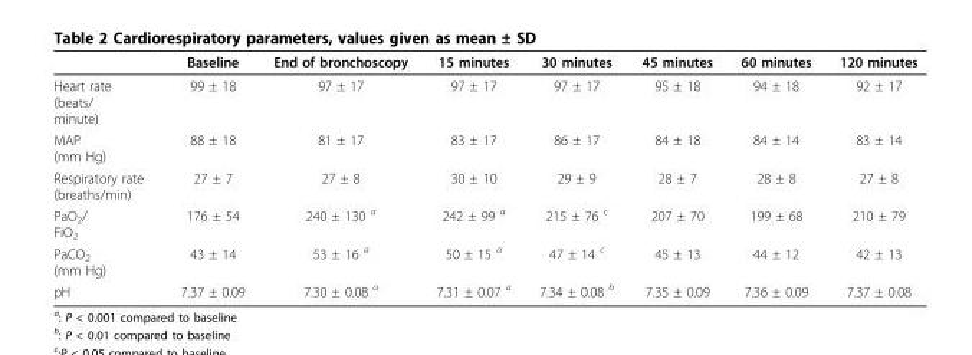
<table><thead><tr><td></td><td>Baseline</td><td>End of bronchoscopy</td><td>15 minutes</td><td>30 minutes</td><td>45 minutes</td><td>60 minutes</td><td>120 minutes</td></tr></thead><tbody><tr><td>Heart rate (beats/ minute)</td><td>99 ± 18</td><td>97 ± 17</td><td>97 ± 17</td><td>97 ± 17</td><td>95 ± 18</td><td>94 ± 18</td><td>92 ± 17</td></tr><tr><td>MAP (mm Hg)</td><td>88 ± 18</td><td>81 ± 17</td><td>83 ± 17</td><td>86 ± 17</td><td>84 ± 18</td><td>84 ± 14</td><td>83 ± 14</td></tr><tr><td>Respiratory rate (breaths/min)</td><td>27 ± 7</td><td>27 ± 8</td><td>30 ± 10</td><td>29 ± 9</td><td>28 ± 7</td><td>28 ± 8</td><td>27 ± 8</td></tr><tr><td>PaO<sub>2</sub>/ FiO<sub>2</sub></td><td>176 ± 54</td><td>240 ± 130 <sup>a</sup></td><td>242 ± 99 <sup>a</sup></td><td>215 ± 76 <sup>c</sup></td><td>207 ± 70</td><td>199 ± 68</td><td>210 ± 79</td></tr><tr><td>PaCO<sub>2</sub> (mm Hg)</td><td>43 ± 14</td><td>53 ± 16 <sup>a</sup></td><td>50 ± 15 <sup>a</sup></td><td>47 ± 14 <sup>c</sup></td><td>45 ± 13</td><td>44 ± 12</td><td>42 ± 13</td></tr><tr><td>pH</td><td>7.37 ± 0.09</td><td>7.30 ± 0.08 <sup>a</sup></td><td>7.31 ± 0.07 <sup>a</sup></td><td>7.34 ± 0.08 <sup>b</sup></td><td>7.35 ± 0.09</td><td>7.36 ± 0.09</td><td>7.37 ± 0.08</td></tr></tbody></table>